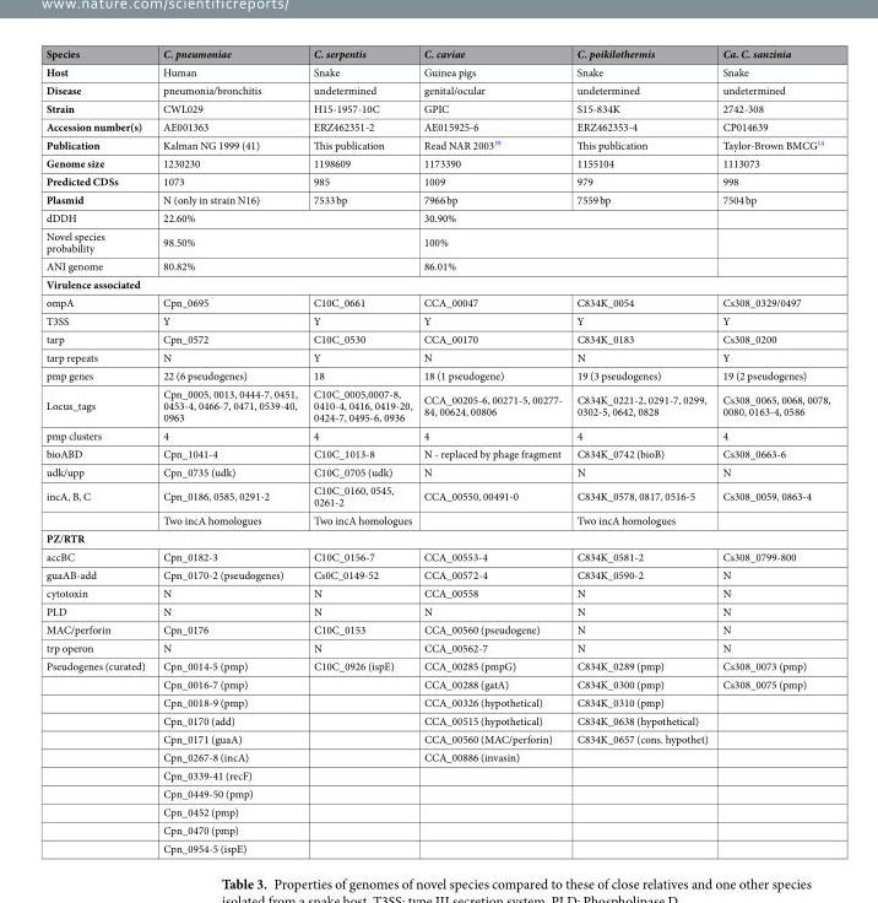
<table><thead><tr><td>Species</td><td>C. pneumoniae</td><td>C. serpentis</td><td>C. caviae</td><td>C. poikilothermis</td><td>Ca. C. sanzinia</td></tr></thead><tbody><tr><td>Host</td><td>Human</td><td>Snake</td><td>Guinea pigs</td><td>Snake</td><td>Snake</td></tr><tr><td>Disease</td><td>pneumonia/bronchitis</td><td>undetermined</td><td>genital/ocular</td><td>undetermined</td><td>undetermined</td></tr><tr><td>Strain</td><td>CWL029</td><td>H15-1957-10C</td><td>GPIC</td><td>S15-834K</td><td>2742-308</td></tr><tr><td>Accession number(s)</td><td>AE001363</td><td>ERZ462351-2</td><td>AE015925-6</td><td>ERZ462353-4</td><td>CP014639</td></tr><tr><td>Publication</td><td>Kalman NG 1999 (41)</td><td>This publication</td><td>Read NAR 2003<sup>39</sup></td><td>This publication</td><td>Taylor-Brown BMCG<sup>14</sup></td></tr><tr><td>Genome size</td><td>1230230</td><td>1198609</td><td>1173390</td><td>1155104</td><td>1113073</td></tr><tr><td>Predicted CDSs</td><td>1073</td><td>985</td><td>1009</td><td>979</td><td>998</td></tr><tr><td>Plasmid</td><td>N (only in strain N16)</td><td>7533 bp</td><td>7966 bp</td><td>7559 bp</td><td>7504 bp</td></tr><tr><td>dDDH</td><td colspan="2">22.60%</td><td colspan="2">30.90%</td><td></td></tr><tr><td>Novel species probability</td><td colspan="2">98.50%</td><td colspan="2">100%</td><td></td></tr><tr><td>ANI genome</td><td colspan="2">80.82%</td><td colspan="2">86.01%</td><td></td></tr><tr><td colspan="6">Virulence associated</td></tr><tr><td>ompA</td><td>Cpn_0695</td><td>C10C_0661</td><td>CCA_00047</td><td>C834K_0054</td><td>Cs308_0329/0497</td></tr><tr><td>T3SS</td><td>Y</td><td>Y</td><td>Y</td><td>Y</td><td>Y</td></tr><tr><td>tarp</td><td>Cpn_0572</td><td>C10C_0530</td><td>CCA_00170</td><td>C834K_0183</td><td>Cs308_0200</td></tr><tr><td>tarp repeats</td><td>N</td><td>Y</td><td>N</td><td>N</td><td>Y</td></tr><tr><td>pmp genes</td><td>22 (6 pseudogenes)</td><td>18</td><td>18 (1 pseudogene)</td><td>19 (3 pseudogenes)</td><td>19 (2 pseudogenes)</td></tr><tr><td>Locus_tags</td><td>Cpn_0005, 0013, 0444-7, 0451, 0453-4, 0466-7, 0471, 0539-40, 0963</td><td>C10C_0005,0007-8, 0410-4, 0416, 0419-20, 0424-7, 0495-6, 0936</td><td>CCA_00205-6, 00271-5, 00277- 84, 00624, 00806</td><td>C834K_0221-2, 0291-7, 0299, 0302-5, 0642, 0828</td><td>Cs308_0065, 0068, 0078, 0080, 0163-4, 0586</td></tr><tr><td>pmp clusters</td><td>4</td><td>4</td><td>4</td><td>4</td><td>4</td></tr><tr><td>bioABD</td><td>Cpn_1041-4</td><td>C10C_1013-8</td><td>N - replaced by phage fragment</td><td>C834K_0742 (bioB)</td><td>Cs308_0663-6</td></tr><tr><td>udk/upp</td><td>Cpn_0735 (udk)</td><td>C10C_0705 (udk)</td><td>N</td><td>N</td><td>N</td></tr><tr><td rowspan="2">incA, B, C</td><td>Cpn_0186, 0585, 0291-2</td><td>C10C_0160, 0545, 0261-2</td><td>CCA_00550, 00491-0</td><td>C834K_0578, 0817, 0516-5</td><td>Cs308_0059, 0863-4</td></tr><tr><td>Two incA homologues</td><td>Two incA homologues</td><td></td><td>Two incA homologues</td><td></td></tr><tr><td colspan="6">PZ/RTR</td></tr><tr><td>accBC</td><td>Cpn_0182-3</td><td>C10C_0156-7</td><td>CCA_00553-4</td><td>C834K_0581-2</td><td>Cs308_0799-800</td></tr><tr><td>guaAB-add</td><td>Cpn_0170-2 (pseudogenes)</td><td>Cs0C_0149-52</td><td>CCA_00572-4</td><td>C834K_0590-2</td><td>N</td></tr><tr><td>cytotoxin</td><td>N</td><td>N</td><td>CCA_00558</td><td>N</td><td>N</td></tr><tr><td>PLD</td><td>N</td><td>N</td><td>N</td><td>N</td><td>N</td></tr><tr><td>MAC/perforin</td><td>Cpn_0176</td><td>C10C_0153</td><td>CCA_00560 (pseudogene)</td><td>N</td><td>N</td></tr><tr><td>trp operon</td><td>N</td><td>N</td><td>CCA_00562-7</td><td>N</td><td>N</td></tr><tr><td rowspan="11">Pseudogenes (curated)</td><td>Cpn_0014-5 (pmp)</td><td>C10C_0926 (ispE)</td><td>CCA_00285 (pmpG)</td><td>C834K_0289 (pmp)</td><td>Cs308_0073 (pmp)</td></tr><tr><td>Cpn_0016-7 (pmp)</td><td></td><td>CCA_00288 (gatA)</td><td>C834K_0300 (pmp)</td><td>Cs308_0075 (pmp)</td></tr><tr><td>Cpn_0018-9 (pmp)</td><td></td><td>CCA_00326 (hypothetical)</td><td>C834K_0310 (pmp)</td><td></td></tr><tr><td>Cpn_0170 (add)</td><td></td><td>CCA_00515 (hypothetical)</td><td>C834K_0638 (hypothetical)</td><td></td></tr><tr><td>Cpn_0171 (guaA)</td><td></td><td>CCA_00560 (MAC/perforin)</td><td>C834K_0657 (cons. hypothet)</td><td></td></tr><tr><td>Cpn_0267-8 (incA)</td><td></td><td>CCA_00886 (invasin)</td><td></td><td></td></tr><tr><td>Cpn_0339-41 (recF)</td><td></td><td></td><td></td><td></td></tr><tr><td>Cpn_0449-50 (pmp)</td><td></td><td></td><td></td><td></td></tr><tr><td>Cpn_0452 (pmp)</td><td></td><td></td><td></td><td></td></tr><tr><td>Cpn_0470 (pmp)</td><td></td><td></td><td></td><td></td></tr><tr><td>Cpn_0954-5 (ispE)</td><td></td><td></td><td></td><td></td></tr></tbody></table>